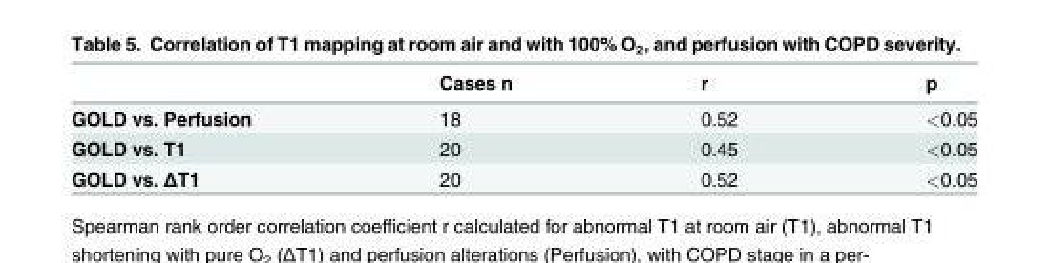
<table><thead><tr><td></td><td>Cases n</td><td>r</td><td>p</td></tr></thead><tbody><tr><td>GOLD vs. Perfusion</td><td>18</td><td>0.52</td><td>&lt;0.05</td></tr><tr><td>GOLD vs. T1</td><td>20</td><td>0.45</td><td>&lt;0.05</td></tr><tr><td>GOLD vs. ΔT1</td><td>20</td><td>0.52</td><td>&lt;0.05</td></tr></tbody></table>